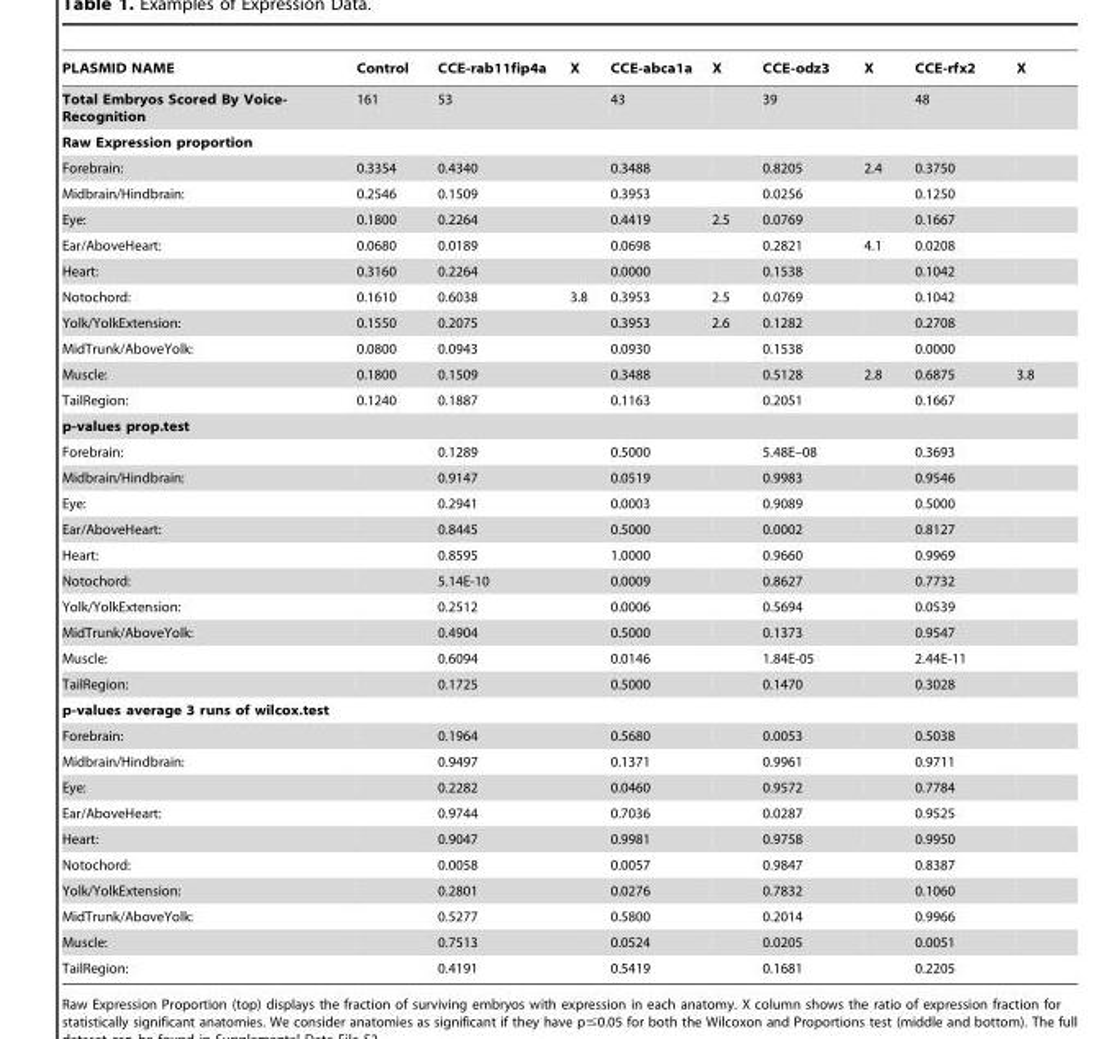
<table><thead><tr><td>PLASMID NAME</td><td>Control</td><td>CCE-rab11fip4a</td><td>X</td><td>CCE-abca1a</td><td>X</td><td>CCE-odz3</td><td>X</td><td>CCE-rfx2</td><td>X</td></tr></thead><tbody><tr><td>Total Embryos Scored By Voice- Recognition</td><td>161</td><td>53</td><td></td><td>43</td><td></td><td>39</td><td></td><td>48</td><td></td></tr><tr><td colspan="10">Raw Expression proportion</td></tr><tr><td>Forebrain:</td><td>0.3354</td><td>0.4340</td><td></td><td>0.3488</td><td></td><td>0.8205</td><td>2.4</td><td>0.3750</td><td></td></tr><tr><td>Midbrain/Hindbrain:</td><td>0.2546</td><td>0.1509</td><td></td><td>0.3953</td><td></td><td>0.0256</td><td></td><td>0.1250</td><td></td></tr><tr><td>Eye:</td><td>0.1800</td><td>0.2264</td><td></td><td>0.4419</td><td>2.5</td><td>0.0769</td><td></td><td>0.1667</td><td></td></tr><tr><td>Ear/AboveHeart:</td><td>0.0680</td><td>0.0189</td><td></td><td>0.0698</td><td></td><td>0.2821</td><td>4.1</td><td>0.0208</td><td></td></tr><tr><td>Heart:</td><td>0.3160</td><td>0.2264</td><td></td><td>0.0000</td><td></td><td>0.1538</td><td></td><td>0.1042</td><td></td></tr><tr><td>Notochord:</td><td>0.1610</td><td>0.6038</td><td>3.8</td><td>0.3953</td><td>2.5</td><td>0.0769</td><td></td><td>0.1042</td><td></td></tr><tr><td>Yolk/YolkExtension:</td><td>0.1550</td><td>0.2075</td><td></td><td>0.3953</td><td>2.6</td><td>0.1282</td><td></td><td>0.2708</td><td></td></tr><tr><td>MidTrunk/AboveYolk:</td><td>0.0800</td><td>0.0943</td><td></td><td>0.0930</td><td></td><td>0.1538</td><td></td><td>0.0000</td><td></td></tr><tr><td>Muscle:</td><td>0.1800</td><td>0.1509</td><td></td><td>0.3488</td><td></td><td>0.5128</td><td>2.8</td><td>0.6875</td><td>3.8</td></tr><tr><td>TailRegion:</td><td>0.1240</td><td>0.1887</td><td></td><td>0.1163</td><td></td><td>0.2051</td><td></td><td>0.1667</td><td></td></tr><tr><td colspan="10">p-values prop.test</td></tr><tr><td>Forebrain:</td><td></td><td>0.1289</td><td></td><td>0.5000</td><td></td><td>5.48E–08</td><td></td><td>0.3693</td><td></td></tr><tr><td>Midbrain/Hindbrain:</td><td></td><td>0.9147</td><td></td><td>0.0519</td><td></td><td>0.9983</td><td></td><td>0.9546</td><td></td></tr><tr><td>Eye:</td><td></td><td>0.2941</td><td></td><td>0.0003</td><td></td><td>0.9089</td><td></td><td>0.5000</td><td></td></tr><tr><td>Ear/AboveHeart:</td><td></td><td>0.8445</td><td></td><td>0.5000</td><td></td><td>0.0002</td><td></td><td>0.8127</td><td></td></tr><tr><td>Heart:</td><td></td><td>0.8595</td><td></td><td>1.0000</td><td></td><td>0.9660</td><td></td><td>0.9969</td><td></td></tr><tr><td>Notochord:</td><td></td><td>5.14E-10</td><td></td><td>0.0009</td><td></td><td>0.8627</td><td></td><td>0.7732</td><td></td></tr><tr><td>Yolk/YolkExtension:</td><td></td><td>0.2512</td><td></td><td>0.0006</td><td></td><td>0.5694</td><td></td><td>0.0539</td><td></td></tr><tr><td>MidTrunk/AboveYolk:</td><td></td><td>0.4904</td><td></td><td>0.5000</td><td></td><td>0.1373</td><td></td><td>0.9547</td><td></td></tr><tr><td>Muscle:</td><td></td><td>0.6094</td><td></td><td>0.0146</td><td></td><td>1.84E-05</td><td></td><td>2.44E-11</td><td></td></tr><tr><td>TailRegion:</td><td></td><td>0.1725</td><td></td><td>0.5000</td><td></td><td>0.1470</td><td></td><td>0.3028</td><td></td></tr><tr><td colspan="10">p-values average 3 runs of wilcox.test</td></tr><tr><td>Forebrain:</td><td></td><td>0.1964</td><td></td><td>0.5680</td><td></td><td>0.0053</td><td></td><td>0.5038</td><td></td></tr><tr><td>Midbrain/Hindbrain:</td><td></td><td>0.9497</td><td></td><td>0.1371</td><td></td><td>0.9961</td><td></td><td>0.9711</td><td></td></tr><tr><td>Eye:</td><td></td><td>0.2282</td><td></td><td>0.0460</td><td></td><td>0.9572</td><td></td><td>0.7784</td><td></td></tr><tr><td>Ear/AboveHeart:</td><td></td><td>0.9744</td><td></td><td>0.7036</td><td></td><td>0.0287</td><td></td><td>0.9525</td><td></td></tr><tr><td>Heart:</td><td></td><td>0.9047</td><td></td><td>0.9981</td><td></td><td>0.9758</td><td></td><td>0.9950</td><td></td></tr><tr><td>Notochord:</td><td></td><td>0.0058</td><td></td><td>0.0057</td><td></td><td>0.9847</td><td></td><td>0.8387</td><td></td></tr><tr><td>Yolk/YolkExtension:</td><td></td><td>0.2801</td><td></td><td>0.0276</td><td></td><td>0.7832</td><td></td><td>0.1060</td><td></td></tr><tr><td>MidTrunk/AboveYolk:</td><td></td><td>0.5277</td><td></td><td>0.5800</td><td></td><td>0.2014</td><td></td><td>0.9966</td><td></td></tr><tr><td>Muscle:</td><td></td><td>0.7513</td><td></td><td>0.0524</td><td></td><td>0.0205</td><td></td><td>0.0051</td><td></td></tr><tr><td>TailRegion:</td><td></td><td>0.4191</td><td></td><td>0.5419</td><td></td><td>0.1681</td><td></td><td>0.2205</td><td></td></tr></tbody></table>